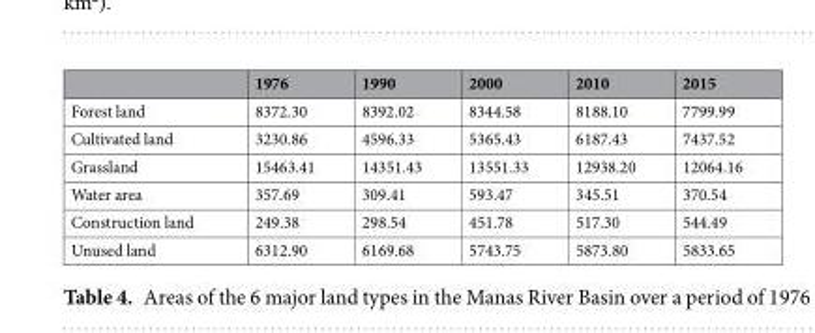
<table><thead><tr><td></td><td>1976</td><td>1990</td><td>2000</td><td>2010</td><td>2015</td></tr></thead><tbody><tr><td>Forest land</td><td>8372.30</td><td>8392.02</td><td>8344.58</td><td>8188.10</td><td>7799.99</td></tr><tr><td>Cultivated land</td><td>3230.86</td><td>4596.33</td><td>5365.43</td><td>6187.43</td><td>7437.52</td></tr><tr><td>Grassland</td><td>15463.41</td><td>14351.43</td><td>13551.33</td><td>12938.20</td><td>12064.16</td></tr><tr><td>Water area</td><td>357.69</td><td>309.41</td><td>593.47</td><td>345.51</td><td>370.54</td></tr><tr><td>Construction land</td><td>249.38</td><td>298.54</td><td>451.78</td><td>517.30</td><td>544.49</td></tr><tr><td>Unused land</td><td>6312.90</td><td>6169.68</td><td>5743.75</td><td>5873.80</td><td>5833.65</td></tr></tbody></table>